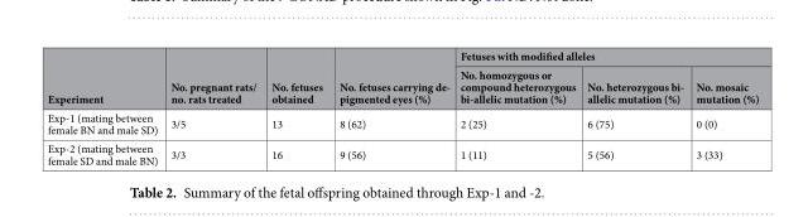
<table><thead><tr><td rowspan="2">Experiment</td><td rowspan="2">No. pregnant rats/ no. rats treated</td><td rowspan="2">No. fetuses obtained</td><td rowspan="2">No. fetuses carrying de- pigmented eyes (%)</td><td colspan="3">Fetuses with modified alleles</td></tr><tr><td>No. homozygous or compound heterozygous bi-allelic mutation (%)</td><td>No. heterozygous bi- allelic mutation (%)</td><td>No. mosaic mutation (%)</td></tr></thead><tbody><tr><td>Exp-1 (mating between female BN and male SD)</td><td>3/5</td><td>13</td><td>8 (62)</td><td>2 (25)</td><td>6 (75)</td><td>0 (0)</td></tr><tr><td>Exp-2 (mating between female SD and male BN)</td><td>3/3</td><td>16</td><td>9 (56)</td><td>1 (11)</td><td>5 (56)</td><td>3 (33)</td></tr></tbody></table>